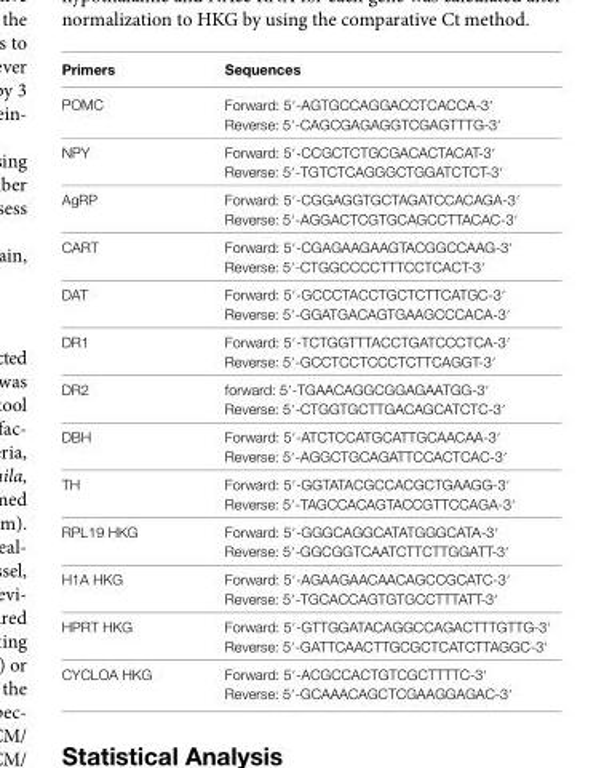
<table><thead><tr><td>Primers</td><td>sequences</td></tr></thead><tbody><tr><td>POMC</td><td>Forward: 5′-AGTGCCAGGACCTCACCA-3′ Reverse: 5′-CAGCGAGAGGTCGAGTTTG-3′</td></tr><tr><td>NPY</td><td>Forward: 5′-CCGCTCTGCGACACTACAT-3′ Reverse: 5′-TGTCTCAGGGCTGGATCTCT-3′</td></tr><tr><td>AgRP</td><td>Forward: 5′-CGGAGGTGCTAGATCCACAGA-3′ Reverse: 5′-AGGACTCGTGCAGCCTTACAC-3′</td></tr><tr><td>CART</td><td>Forward: 5′-CGAGAAGAAGTACGGCCAAG-3′ Reverse: 5′-CTGGCCCCTTTCCTCACT-3′</td></tr><tr><td>DAT</td><td>Forward: 5′-GCCCTACCTGCTCTTCATGC-3′ Reverse: 5′-GGATGACAGTGAAGCCCACA-3′</td></tr><tr><td>DR1</td><td>Forward: 5′-TCTGGTTTACCTGATCCCTCA-3′ Reverse: 5′-GCCTCCTCCCTCTTCAGGT-3′</td></tr><tr><td>DR2</td><td>forward: 5′-TGAACAGGCGGAGAATGG-3′ Reverse: 5′-CTGGTGCTTGACAGCATCTC-3′</td></tr><tr><td>DBH</td><td>Forward: 5′-ATCTCCATGCATTGCAACAA-3′ Reverse: 5′-AGGCTGCAGATTCCACTCAC-3′</td></tr><tr><td>TH</td><td>Forward: 5′-GGTATACGCCACGCTGAAGG-3′ Reverse: 5′-TAGCCACAGTACCGTTCCAGA-3′</td></tr><tr><td>RPL19 HKG</td><td>Forward: 5′-GGGCAGGCATATGGGCATA-3′ Reverse: 5′-GGCGGTCAATCTTCTTGGATT-3′</td></tr><tr><td>H1A HKG</td><td>Forward: 5′-AGAAGAACAACAGCCGCATC-3′ Reverse: 5′-TGCACCAGTGTGCCTTTATT-3′</td></tr><tr><td>HPRT HKG</td><td>Forward: 5′-GTTGGATACAGGCCAGACTTTGTTG-3′ Reverse: 5′-GATTCAACTTGCGCTCATCTTAGGC-3′</td></tr><tr><td>CYCLOA HKG</td><td>Forward: 5′-ACGCCACTGTCGCTTTTC-3′ Reverse: 5′-GCAAACAGCTCGAAGGAGAC-3′</td></tr></tbody></table>